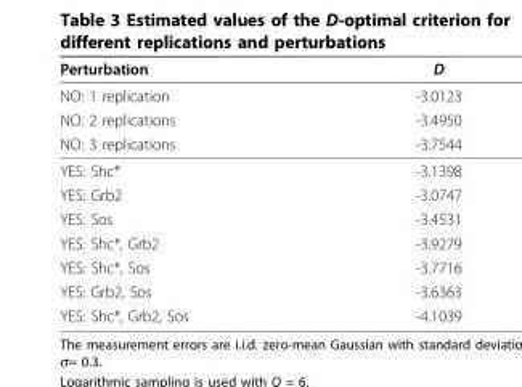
<table><thead><tr><td>Perturbation</td><td>D</td></tr></thead><tbody><tr><td>NO: 1 replication</td><td>-3.0123</td></tr><tr><td>NO: 2 replications</td><td>-3.4950</td></tr><tr><td>NO: 3 replications</td><td>-3.7544</td></tr><tr><td>YES: Shc*</td><td>-3.1398</td></tr><tr><td>YES: Grb2</td><td>-3.0747</td></tr><tr><td>YES: Sos</td><td>-3.4531</td></tr><tr><td>YES: Shc*, Grb2</td><td>-3.9279</td></tr><tr><td>YES: Shc*, Sos</td><td>-3.7716</td></tr><tr><td>YES: Grb2, Sos</td><td>-3.6363</td></tr><tr><td>YES: Shc*, Grb2, Sos</td><td>-4.1039</td></tr></tbody></table>